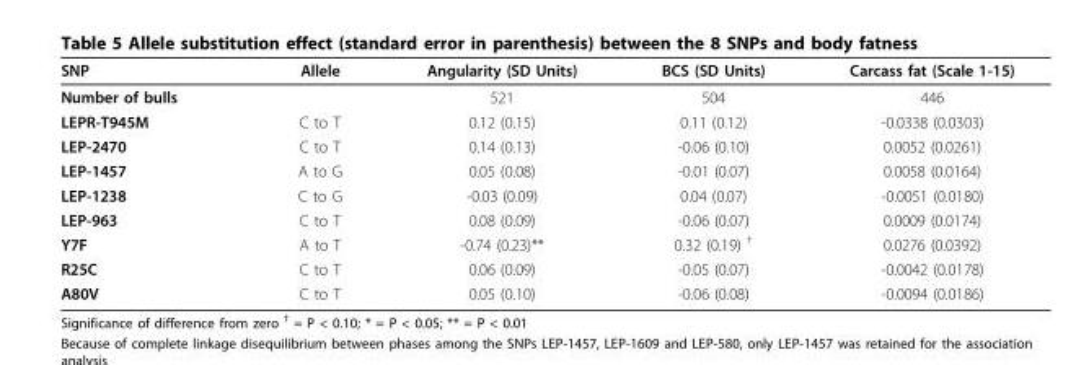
<table><thead><tr><td>SNP</td><td>Allele</td><td>Angularity (SD Units)</td><td>BCS (SD Units)</td><td>Carcass fat (Scale 1-15)</td></tr></thead><tbody><tr><td>Number of bulls</td><td></td><td>521</td><td>504</td><td>446</td></tr><tr><td>LEPR-T945M</td><td>C to T</td><td>0.12 (0.15)</td><td>0.11 (0.12)</td><td>-0.0338 (0.0303)</td></tr><tr><td>LEP-2470</td><td>C to T</td><td>0.14 (0.13)</td><td>-0.06 (0.10)</td><td>0.0052 (0.0261)</td></tr><tr><td>LEP-1457</td><td>A to G</td><td>0.05 (0.08)</td><td>-0.01 (0.07)</td><td>0.0058 (0.0164)</td></tr><tr><td>LEP-1238</td><td>C to G</td><td>-0.03 (0.09)</td><td>0.04 (0.07)</td><td>-0.0051 (0.0180)</td></tr><tr><td>LEP-963</td><td>C to T</td><td>0.08 (0.09)</td><td>-0.06 (0.07)</td><td>0.0009 (0.0174)</td></tr><tr><td>Y7F</td><td>A to T</td><td>-0.74 (0.23)**</td><td>0.32 (0.19) <sup>†</sup></td><td>0.0276 (0.0392)</td></tr><tr><td>R25C</td><td>C to T</td><td>0.06 (0.09)</td><td>-0.05 (0.07)</td><td>-0.0042 (0.0178)</td></tr><tr><td>A80V</td><td>C to T</td><td>0.05 (0.10)</td><td>-0.06 (0.08)</td><td>-0.0094 (0.0186)</td></tr></tbody></table>